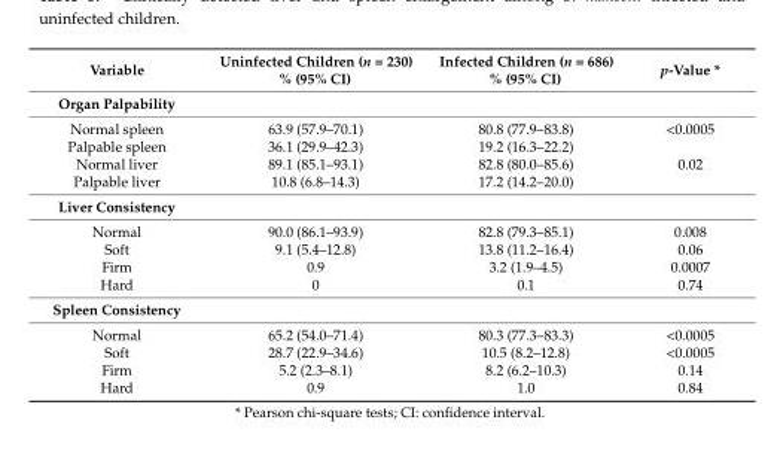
<table><thead><tr><td>Variable</td><td>Uninfected Children (n = 230) % (95% CI)</td><td>Infected Children (n = 686) % (95% CI)</td><td>p-Value *</td></tr></thead><tbody><tr><td colspan="4">Organ Palpability</td></tr><tr><td>Normal spleen</td><td>63.9 (57.9–70.1)</td><td>80.8 (77.9–83.8)</td><td>&lt;0.0005</td></tr><tr><td>Palpable spleen</td><td>36.1 (29.9–42.3)</td><td>19.2 (16.3–22.2)</td><td></td></tr><tr><td>Normal liver</td><td>89.1 (85.1–93.1)</td><td>82.8 (80.0–85.6)</td><td>0.02</td></tr><tr><td>Palpable liver</td><td>10.8 (6.8–14.3)</td><td>17.2 (14.2–20.0)</td><td></td></tr><tr><td colspan="4">Liver Consistency</td></tr><tr><td>Normal</td><td>90.0 (86.1–93.9)</td><td>82.8 (79.3–85.1)</td><td>0.008</td></tr><tr><td>Soft</td><td>9.1 (5.4–12.8)</td><td>13.8 (11.2–16.4)</td><td>0.06</td></tr><tr><td>Firm</td><td>0.9</td><td>3.2 (1.9–4.5)</td><td>0.0007</td></tr><tr><td>Hard</td><td>0</td><td>0.1</td><td>0.74</td></tr><tr><td colspan="4">Spleen Consistency</td></tr><tr><td>Normal</td><td>65.2 (54.0–71.4)</td><td>80.3 (77.3–83.3)</td><td>&lt;0.0005</td></tr><tr><td>Soft</td><td>28.7 (22.9–34.6)</td><td>10.5 (8.2–12.8)</td><td>&lt;0.0005</td></tr><tr><td>Firm</td><td>5.2 (2.3–8.1)</td><td>8.2 (6.2–10.3)</td><td>0.14</td></tr><tr><td>Hard</td><td>0.9</td><td>1.0</td><td>0.84</td></tr></tbody></table>